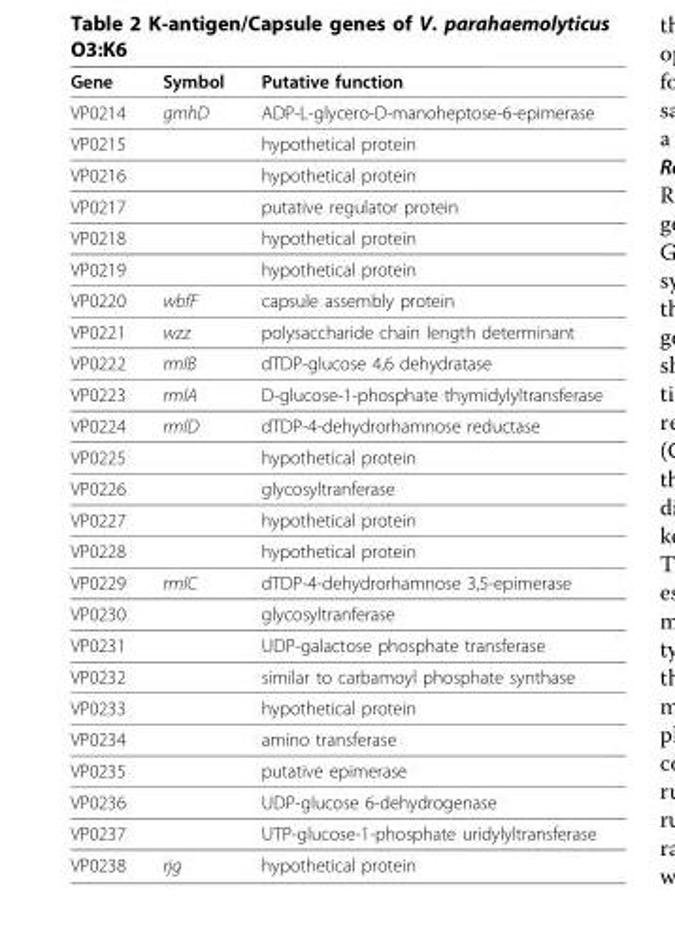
<table><thead><tr><td>Gene</td><td>Symbol</td><td>Putative function</td></tr></thead><tbody><tr><td>VP0214</td><td>gmhD</td><td>ADP-L-glycero-D-manoheptose-6-epimerase</td></tr><tr><td>VP0215</td><td></td><td>hypothetical protein</td></tr><tr><td>VP0216</td><td></td><td>hypothetical protein</td></tr><tr><td>VP0217</td><td></td><td>putative regulator protein</td></tr><tr><td>VP0218</td><td></td><td>hypothetical protein</td></tr><tr><td>VP0219</td><td></td><td>hypothetical protein</td></tr><tr><td>VP0220</td><td>wbfF</td><td>capsule assembly protein</td></tr><tr><td>VP0221</td><td>wzz</td><td>polysaccharide chain length determinant</td></tr><tr><td>VP0222</td><td>rmlB</td><td>dTDP-glucose 4,6 dehydratase</td></tr><tr><td>VP0223</td><td>rmlA</td><td>D-glucose-1-phosphate thymidylyltransferase</td></tr><tr><td>VP0224</td><td>rmlD</td><td>dTDP-4-dehydrorhamnose reductase</td></tr><tr><td>VP0225</td><td></td><td>hypothetical protein</td></tr><tr><td>VP0226</td><td></td><td>glycosyltranferase</td></tr><tr><td>VP0227</td><td></td><td>hypothetical protein</td></tr><tr><td>VP0228</td><td></td><td>hypothetical protein</td></tr><tr><td>VP0229</td><td>rmlC</td><td>dTDP-4-dehydrorhamnose 3,5-epimerase</td></tr><tr><td>VP0230</td><td></td><td>glycosyltranferase</td></tr><tr><td>VP0231</td><td></td><td>UDP-galactose phosphate transferase</td></tr><tr><td>VP0232</td><td></td><td>similar to carbamoyl phosphate synthase</td></tr><tr><td>VP0233</td><td></td><td>hypothetical protein</td></tr><tr><td>VP0234</td><td></td><td>amino transferase</td></tr><tr><td>VP0235</td><td></td><td>putative epimerase</td></tr><tr><td>VP0236</td><td></td><td>UDP-glucose 6-dehydrogenase</td></tr><tr><td>VP0237</td><td></td><td>UTP-glucose-1-phosphate uridylyltransferase</td></tr><tr><td>VP0238</td><td>rjg</td><td>hypothetical protein</td></tr></tbody></table>